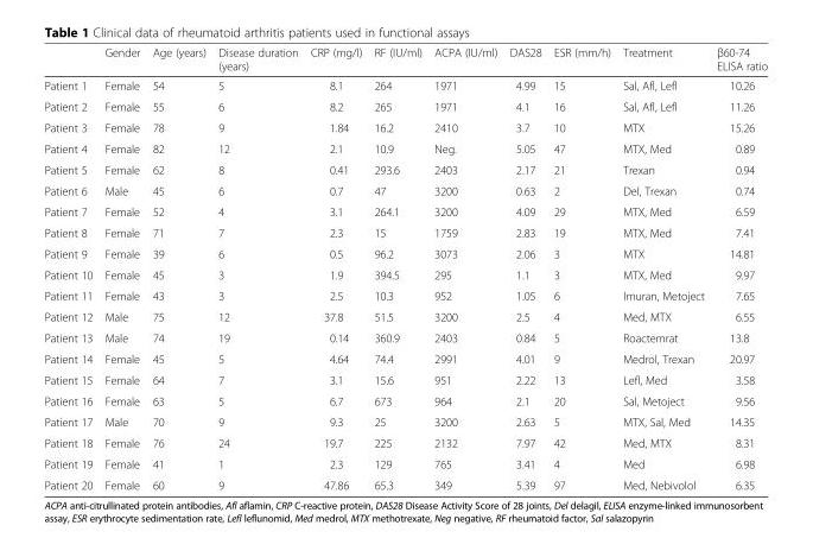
<table><thead><tr><td></td><td>Gender</td><td>Age (years)</td><td>Disease duration (years)</td><td>CRP (mg/l)</td><td>RF (IU/ml)</td><td>ACPA (IU/ml)</td><td>DAS28</td><td>ESR (mm/h)</td><td>Treatment</td><td>β60-74 ELISA ratio</td></tr></thead><tbody><tr><td>Patient 1</td><td>Female</td><td>54</td><td>5</td><td>8.1</td><td>264</td><td>1971</td><td>4.99</td><td>15</td><td>Sal, Afl, Lefl</td><td>10.26</td></tr><tr><td>Patient 2</td><td>Female</td><td>55</td><td>6</td><td>8.2</td><td>265</td><td>1971</td><td>4.1</td><td>16</td><td>Sal, Afl, Lefl</td><td>11.26</td></tr><tr><td>Patient 3</td><td>Female</td><td>78</td><td>9</td><td>1.84</td><td>16.2</td><td>2410</td><td>3.7</td><td>10</td><td>MTX</td><td>15.26</td></tr><tr><td>Patient 4</td><td>Female</td><td>82</td><td>12</td><td>2.1</td><td>10.9</td><td>Neg.</td><td>5.05</td><td>47</td><td>MTX, Med</td><td>0.89</td></tr><tr><td>Patient 5</td><td>Female</td><td>62</td><td>8</td><td>0.41</td><td>293.6</td><td>2403</td><td>2.17</td><td>21</td><td>Trexan</td><td>0.94</td></tr><tr><td>Patient 6</td><td>Male</td><td>45</td><td>6</td><td>0.7</td><td>47</td><td>3200</td><td>0.63</td><td>2</td><td>Del, Trexan</td><td>0.74</td></tr><tr><td>Patient 7</td><td>Female</td><td>52</td><td>4</td><td>3.1</td><td>264.1</td><td>3200</td><td>4.09</td><td>29</td><td>MTX, Med</td><td>6.59</td></tr><tr><td>Patient 8</td><td>Female</td><td>71</td><td>7</td><td>2.3</td><td>15</td><td>1759</td><td>2.83</td><td>19</td><td>MTX, Med</td><td>7.41</td></tr><tr><td>Patient 9</td><td>Female</td><td>39</td><td>6</td><td>0.5</td><td>96.2</td><td>3073</td><td>2.06</td><td>3</td><td>MTX</td><td>14.81</td></tr><tr><td>Patient 10</td><td>Female</td><td>45</td><td>3</td><td>1.9</td><td>394.5</td><td>295</td><td>1.1</td><td>3</td><td>MTX, Med</td><td>9.97</td></tr><tr><td>Patient 11</td><td>Female</td><td>43</td><td>3</td><td>2.5</td><td>10.3</td><td>952</td><td>1.05</td><td>6</td><td>Imuran, Metoject</td><td>7.65</td></tr><tr><td>Patient 12</td><td>Male</td><td>75</td><td>12</td><td>37.8</td><td>51.5</td><td>3200</td><td>2.5</td><td>4</td><td>Med, MTX</td><td>6.55</td></tr><tr><td>Patient 13</td><td>Male</td><td>74</td><td>19</td><td>0.14</td><td>360.9</td><td>2403</td><td>0.84</td><td>5</td><td>Roactemrat</td><td>13.8</td></tr><tr><td>Patient 14</td><td>Female</td><td>45</td><td>5</td><td>4.64</td><td>74.4</td><td>2991</td><td>4.01</td><td>9</td><td>Medrol, Trexan</td><td>20.97</td></tr><tr><td>Patient 15</td><td>Female</td><td>64</td><td>7</td><td>3.1</td><td>15.6</td><td>951</td><td>2.22</td><td>13</td><td>Lefl, Med</td><td>3.58</td></tr><tr><td>Patient 16</td><td>Female</td><td>63</td><td>5</td><td>6.7</td><td>673</td><td>964</td><td>2.1</td><td>20</td><td>Sal, Metoject</td><td>9.56</td></tr><tr><td>Patient 17</td><td>Male</td><td>70</td><td>9</td><td>9.3</td><td>25</td><td>3200</td><td>2.63</td><td>5</td><td>MTX, Sal, Med</td><td>14.35</td></tr><tr><td>Patient 18</td><td>Female</td><td>76</td><td>24</td><td>19.7</td><td>225</td><td>2132</td><td>7.97</td><td>42</td><td>Med, MTX</td><td>8.31</td></tr><tr><td>Patient 19</td><td>Female</td><td>41</td><td>1</td><td>2.3</td><td>129</td><td>765</td><td>3.41</td><td>4</td><td>Med</td><td>6.98</td></tr><tr><td>Patient 20</td><td>Female</td><td>60</td><td>9</td><td>47.86</td><td>65.3</td><td>349</td><td>5.39</td><td>97</td><td>Med, Nebivolol</td><td>6.35</td></tr></tbody></table>